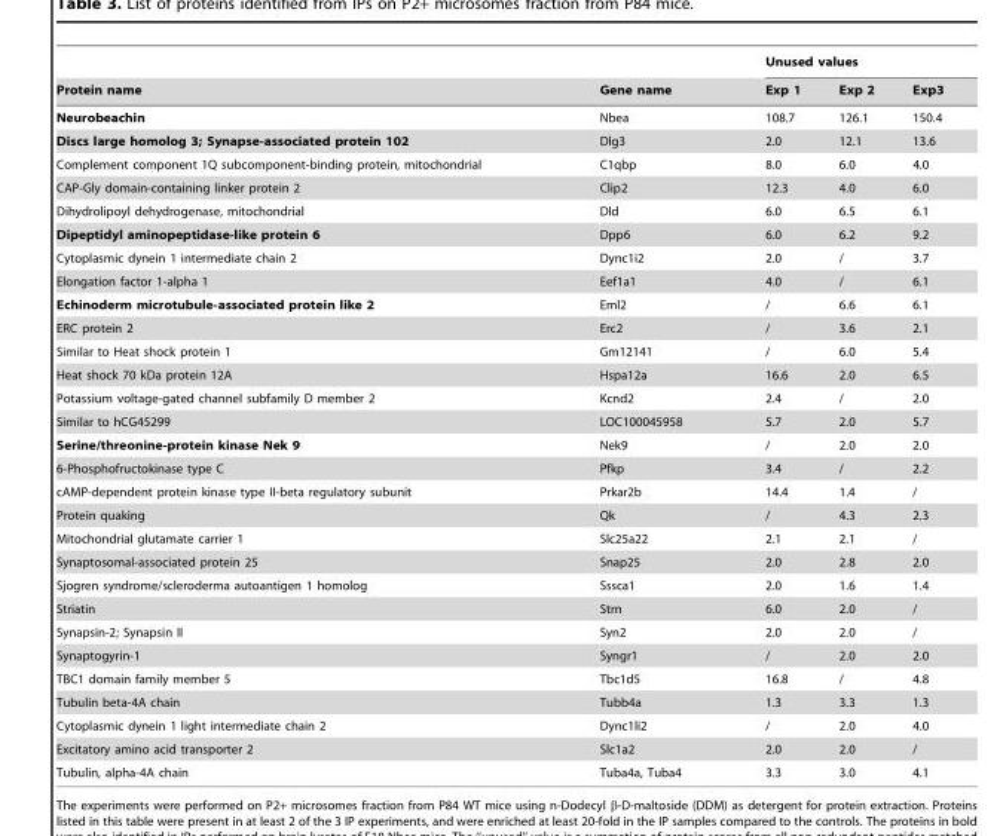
<table><thead><tr><td rowspan="2">Protein name</td><td rowspan="2">Gene name</td><td colspan="3">Unused values</td></tr><tr><td>Exp 1</td><td>Exp 2</td><td>Exp3</td></tr></thead><tbody><tr><td>Neurobeachin</td><td>Nbea</td><td>108.7</td><td>126.1</td><td>150.4</td></tr><tr><td>Discs large homolog 3; Synapse-associated protein 102</td><td>Dlg3</td><td>2.0</td><td>12.1</td><td>13.6</td></tr><tr><td>Complement component 1Q subcomponent-binding protein, mitochondrial</td><td>C1qbp</td><td>8.0</td><td>6.0</td><td>4.0</td></tr><tr><td>CAP-Gly domain-containing linker protein 2</td><td>Clip2</td><td>12.3</td><td>4.0</td><td>6.0</td></tr><tr><td>Dihydrolipoyl dehydrogenase, mitochondrial</td><td>Dld</td><td>6.0</td><td>6.5</td><td>6.1</td></tr><tr><td>Dipeptidyl aminopeptidase-like protein 6</td><td>Dpp6</td><td>6.0</td><td>6.2</td><td>9.2</td></tr><tr><td>Cytoplasmic dynein 1 intermediate chain 2</td><td>Dync1i2</td><td>2.0</td><td>/</td><td>3.7</td></tr><tr><td>Elongation factor 1-alpha 1</td><td>Eef1a1</td><td>4.0</td><td>/</td><td>6.1</td></tr><tr><td>Echinoderm microtubule-associated protein like 2</td><td>Eml2</td><td>/</td><td>6.6</td><td>6.1</td></tr><tr><td>ERC protein 2</td><td>Erc2</td><td>/</td><td>3.6</td><td>2.1</td></tr><tr><td>Similar to Heat shock protein 1</td><td>Gm12141</td><td>/</td><td>6.0</td><td>5.4</td></tr><tr><td>Heat shock 70 kDa protein 12A</td><td>Hspa12a</td><td>16.6</td><td>2.0</td><td>6.5</td></tr><tr><td>Potassium voltage-gated channel subfamily D member 2</td><td>Kcnd2</td><td>2.4</td><td>/</td><td>2.0</td></tr><tr><td>Similar to hCG45299</td><td>LOC100045958</td><td>5.7</td><td>2.0</td><td>5.7</td></tr><tr><td>Serine/threonine-protein kinase Nek 9</td><td>Nek9</td><td>/</td><td>2.0</td><td>2.0</td></tr><tr><td>6-Phosphofructokinase type C</td><td>Pfkp</td><td>3.4</td><td>/</td><td>2.2</td></tr><tr><td>cAMP-dependent protein kinase type II-beta regulatory subunit</td><td>Prkar2b</td><td>14.4</td><td>1.4</td><td>/</td></tr><tr><td>Protein quaking</td><td>Qk</td><td>/</td><td>4.3</td><td>2.3</td></tr><tr><td>Mitochondrial glutamate carrier 1</td><td>Slc25a22</td><td>2.1</td><td>2.1</td><td>/</td></tr><tr><td>Synaptosomal-associated protein 25</td><td>Snap25</td><td>2.0</td><td>2.8</td><td>2.0</td></tr><tr><td>Sjogren syndrome/scleroderma autoantigen 1 homolog</td><td>Sssca1</td><td>2.0</td><td>1.6</td><td>1.4</td></tr><tr><td>Striatin</td><td>Strn</td><td>6.0</td><td>2.0</td><td>/</td></tr><tr><td>Synapsin-2; Synapsin II</td><td>Syn2</td><td>2.0</td><td>2.0</td><td>/</td></tr><tr><td>Synaptogyrin-1</td><td>Syngr1</td><td>/</td><td>2.0</td><td>2.0</td></tr><tr><td>TBC1 domain family member 5</td><td>Tbc1d5</td><td>16.8</td><td>/</td><td>4.8</td></tr><tr><td>Tubulin beta-4A chain</td><td>Tubb4a</td><td>1.3</td><td>3.3</td><td>1.3</td></tr><tr><td>Cytoplasmic dynein 1 light intermediate chain 2</td><td>Dync1li2</td><td>/</td><td>2.0</td><td>4.0</td></tr><tr><td>Excitatory amino acid transporter 2</td><td>Slc1a2</td><td>2.0</td><td>2.0</td><td>/</td></tr><tr><td>Tubulin, alpha-4A chain</td><td>Tuba4a, Tuba4</td><td>3.3</td><td>3.0</td><td>4.1</td></tr></tbody></table>